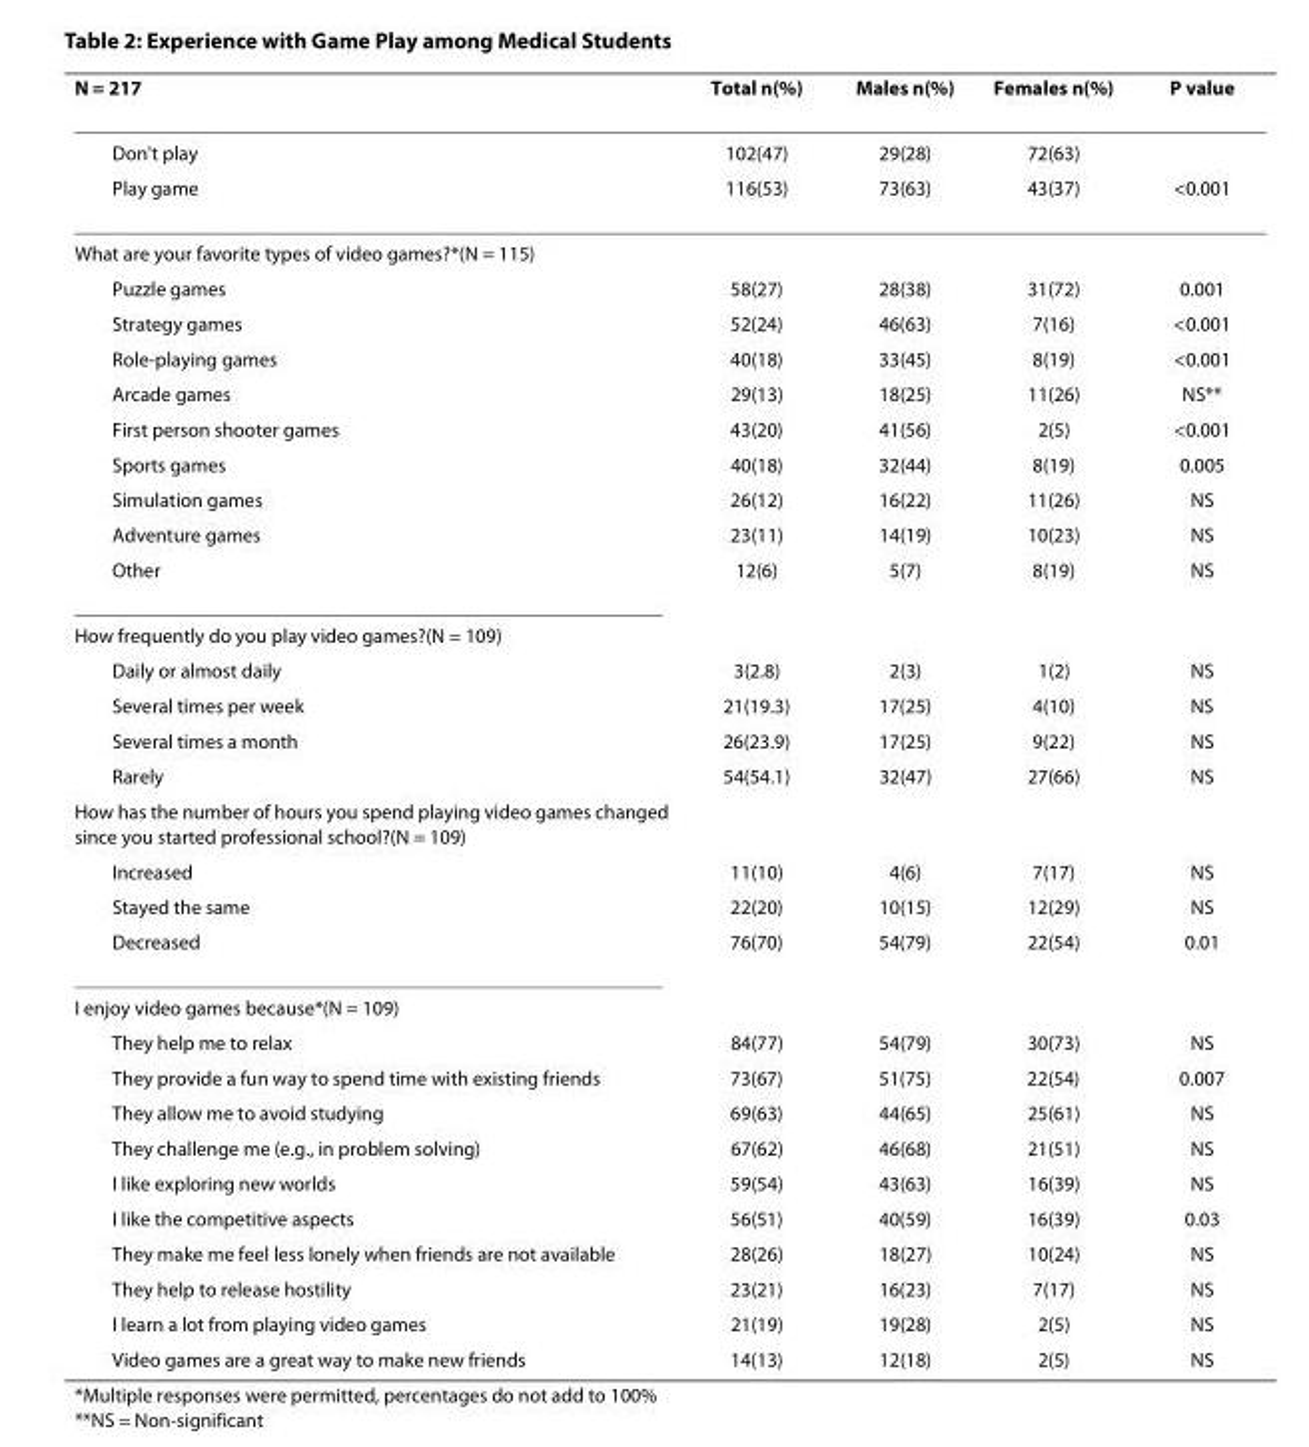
<table><thead><tr><td>N = 217</td><td>Total n(%)</td><td>Males n(%)</td><td>Females n(%)</td><td>P value</td></tr></thead><tbody><tr><td>Don&#x27;t play</td><td>102(47)</td><td>29(28)</td><td>72(63)</td><td></td></tr><tr><td>Play game</td><td>116(53)</td><td>73(63)</td><td>43(37)</td><td>&lt;0.001</td></tr><tr><td colspan="5">What are your favorite types of video games?*(N = 115)</td></tr><tr><td>Puzzle games</td><td>58(27)</td><td>28(38)</td><td>31(72)</td><td>0.001</td></tr><tr><td>Strategy games</td><td>52(24)</td><td>46(63)</td><td>7(16)</td><td>&lt;0.001</td></tr><tr><td>Role-playing games</td><td>40(18)</td><td>33(45)</td><td>8(19)</td><td>&lt;0.001</td></tr><tr><td>Arcade games</td><td>29(13)</td><td>18(25)</td><td>11(26)</td><td>NS**</td></tr><tr><td>First person shooter games</td><td>43(20)</td><td>41(56)</td><td>2(5)</td><td>&lt;0.001</td></tr><tr><td>Sports games</td><td>40(18)</td><td>32(44)</td><td>8(19)</td><td>0.005</td></tr><tr><td>Simulation games</td><td>26(12)</td><td>16(22)</td><td>11(26)</td><td>NS</td></tr><tr><td>Adventure games</td><td>23(11)</td><td>14(19)</td><td>10(23)</td><td>NS</td></tr><tr><td>Other</td><td>12(6)</td><td>5(7)</td><td>8(19)</td><td>NS</td></tr><tr><td colspan="5">How frequently do you play video games?(N = 109)</td></tr><tr><td>Daily or almost daily</td><td>3(2.8)</td><td>2(3)</td><td>1(2)</td><td>NS</td></tr><tr><td>Several times per week</td><td>21(19.3)</td><td>17(25)</td><td>4(10)</td><td>NS</td></tr><tr><td>Several times a month</td><td>26(23.9)</td><td>17(25)</td><td>9(22)</td><td>NS</td></tr><tr><td>Rarely</td><td>54(54.1)</td><td>32(47)</td><td>27(66)</td><td>NS</td></tr><tr><td colspan="5">How has the number of hours you spend playing video games changed since you started professional school?(N = 109)</td></tr><tr><td>Increased</td><td>11(10)</td><td>4(6)</td><td>7(17)</td><td>NS</td></tr><tr><td>Stayed the same</td><td>22(20)</td><td>10(15)</td><td>12(29)</td><td>NS</td></tr><tr><td>Decreased</td><td>76(70)</td><td>54(79)</td><td>22(54)</td><td>0.01</td></tr><tr><td colspan="5">I enjoy video games because*(N = 109)</td></tr><tr><td>They help me to relax</td><td>84(77)</td><td>54(79)</td><td>30(73)</td><td>NS</td></tr><tr><td>They provide a fun way to spend time with existing friends</td><td>73(67)</td><td>51(75)</td><td>22(54)</td><td>0.007</td></tr><tr><td>They allow me to avoid studying</td><td>69(63)</td><td>44(65)</td><td>25(61)</td><td>NS</td></tr><tr><td>They challenge me (e.g., in problem solving)</td><td>67(62)</td><td>46(68)</td><td>21(51)</td><td>NS</td></tr><tr><td>I like exploring new worlds</td><td>59(54)</td><td>43(63)</td><td>16(39)</td><td>NS</td></tr><tr><td>I like the competitive aspects</td><td>56(51)</td><td>40(59)</td><td>16(39)</td><td>0.03</td></tr><tr><td>They make me feel less lonely when friends are not available</td><td>28(26)</td><td>18(27)</td><td>10(24)</td><td>NS</td></tr><tr><td>They help to release hostility</td><td>23(21)</td><td>16(23)</td><td>7(17)</td><td>NS</td></tr><tr><td>I learn a lot from playing video games</td><td>21(19)</td><td>19(28)</td><td>2(5)</td><td>NS</td></tr><tr><td>Video games are a great way to make new friends</td><td>14(13)</td><td>12(18)</td><td>2(5)</td><td>NS</td></tr></tbody></table>